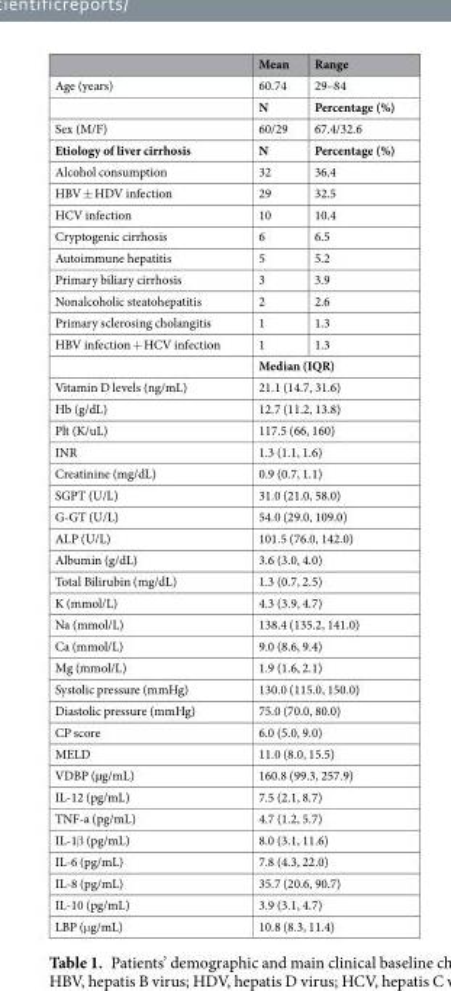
<table><thead><tr><td></td><td>Mean</td><td>Range</td></tr></thead><tbody><tr><td rowspan="2">Age (years)</td><td>60.74</td><td>29–84</td></tr><tr><td>N</td><td>Percentage (%)</td></tr><tr><td>Sex (M/F)</td><td>60/29</td><td>67.4/32.6</td></tr><tr><td>Etiology of liver cirrhosis</td><td>N</td><td>Percentage (%)</td></tr><tr><td>Alcohol consumption</td><td>32</td><td>36.4</td></tr><tr><td>HBV ± HDV infection</td><td>29</td><td>32.5</td></tr><tr><td>HCV infection</td><td>10</td><td>10.4</td></tr><tr><td>Cryptogenic cirrhosis</td><td>6</td><td>6.5</td></tr><tr><td>Autoimmune hepatitis</td><td>5</td><td>5.2</td></tr><tr><td>Primary biliary cirrhosis</td><td>3</td><td>3.9</td></tr><tr><td>Nonalcoholic steatohepatitis</td><td>2</td><td>2.6</td></tr><tr><td>Primary sclerosing cholangitis</td><td>1</td><td>1.3</td></tr><tr><td rowspan="2">HBV infection + HCV infection</td><td>1</td><td>1.3</td></tr><tr><td colspan="2">Median (IQR)</td></tr><tr><td>Vitamin D levels (ng/mL)</td><td colspan="2">21.1 (14.7, 31.6)</td></tr><tr><td>Hb (g/dL)</td><td colspan="2">12.7 (11.2, 13.8)</td></tr><tr><td>Plt (K/uL)</td><td colspan="2">117.5 (66, 160)</td></tr><tr><td>INR</td><td colspan="2">1.3 (1.1, 1.6)</td></tr><tr><td>Creatinine (mg/dL)</td><td colspan="2">0.9 (0.7, 1.1)</td></tr><tr><td>SGPT (U/L)</td><td colspan="2">31.0 (21.0, 58.0)</td></tr><tr><td>G-GT (U/L)</td><td colspan="2">54.0 (29.0, 109.0)</td></tr><tr><td>ALP (U/L)</td><td colspan="2">101.5 (76.0, 142.0)</td></tr><tr><td>Albumin (g/dL)</td><td colspan="2">3.6 (3.0, 4.0)</td></tr><tr><td>Total Bilirubin (mg/dL)</td><td colspan="2">1.3 (0.7, 2.5)</td></tr><tr><td>K (mmol/L)</td><td colspan="2">4.3 (3.9, 4.7)</td></tr><tr><td>Na (mmol/L)</td><td colspan="2">138.4 (135.2, 141.0)</td></tr><tr><td>Ca (mmol/L)</td><td colspan="2">9.0 (8.6, 9.4)</td></tr><tr><td>Mg (mmol/L)</td><td colspan="2">1.9 (1.6, 2.1)</td></tr><tr><td>Systolic pressure (mmHg)</td><td colspan="2">130.0 (115.0, 150.0)</td></tr><tr><td>Diastolic pressure (mmHg)</td><td colspan="2">75.0 (70.0, 80.0)</td></tr><tr><td>CP score</td><td colspan="2">6.0 (5.0, 9.0)</td></tr><tr><td>MELD</td><td colspan="2">11.0 (8.0, 15.5)</td></tr><tr><td>VDBP (µg/mL)</td><td colspan="2">160.8 (99.3, 257.9)</td></tr><tr><td>IL-12 (pg/mL)</td><td colspan="2">7.5 (2.1, 8.7)</td></tr><tr><td>TNF-a (pg/mL)</td><td colspan="2">4.7 (1.2, 5.7)</td></tr><tr><td>IL-1β (pg/mL)</td><td colspan="2">8.0 (3.1, 11.6)</td></tr><tr><td>IL-6 (pg/mL)</td><td colspan="2">7.8 (4.3, 22.0)</td></tr><tr><td>IL-8 (pg/mL)</td><td colspan="2">35.7 (20.6, 90.7)</td></tr><tr><td>IL-10 (pg/mL)</td><td colspan="2">3.9 (3.1, 4.7)</td></tr><tr><td>LBP (μg/mL)</td><td colspan="2">10.8 (8.3, 11.4)</td></tr></tbody></table>